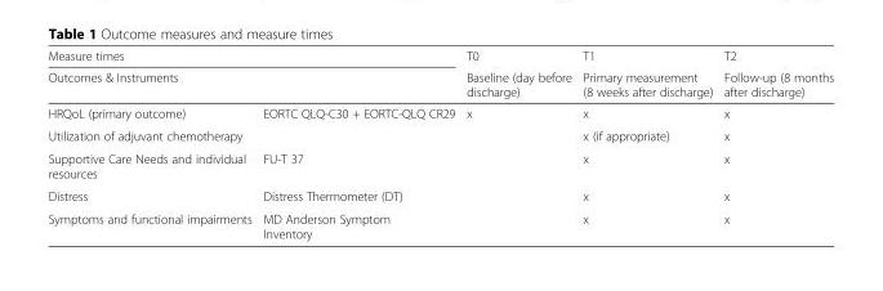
<table><thead><tr><td rowspan="2" colspan="2">Measure times Outcomes &amp; Instruments</td><td rowspan="3">T0 Baseline (day before discharge) x</td><td rowspan="3">T1 Primary measurement (8 weeks after discharge) x</td><td rowspan="3">T2 Follow-up (8 months after discharge) x</td></tr><tr></tr><tr><td>HRQoL (primary outcome)</td><td>EORTC QLQ-C30 + EORTC-QLQ CR29</td></tr></thead><tbody><tr><td>Utilization of adjuvant chemotherapy</td><td></td><td></td><td>x (if appropriate)</td><td>x</td></tr><tr><td>Supportive Care Needs and individual resources</td><td>FU-T 37</td><td></td><td>x</td><td>x</td></tr><tr><td>Distress</td><td>Distress Thermometer (DT)</td><td></td><td>x</td><td>x</td></tr><tr><td>Symptoms and functional impairments</td><td>MD Anderson Symptom Inventory</td><td></td><td>x</td><td>x</td></tr></tbody></table>